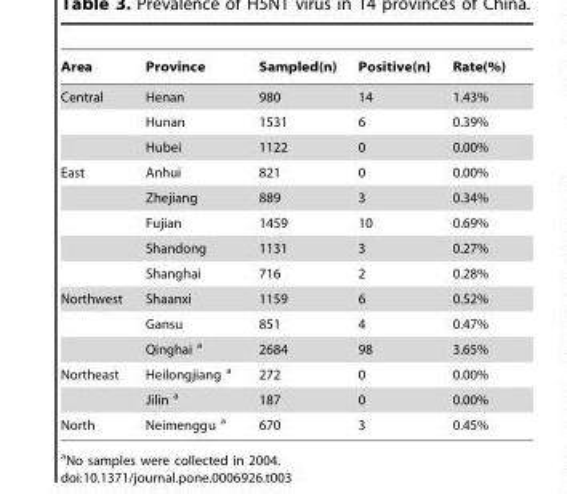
<table><thead><tr><td>Area</td><td>Province</td><td>Sampled(n)</td><td>Positive(n)</td><td>Rate(%)</td></tr></thead><tbody><tr><td rowspan="3">Central</td><td>Henan</td><td>980</td><td>14</td><td>1.43%</td></tr><tr><td>Hunan</td><td>1531</td><td>6</td><td>0.39%</td></tr><tr><td>Hubei</td><td>1122</td><td>0</td><td>0.00%</td></tr><tr><td rowspan="5">East</td><td>Anhui</td><td>821</td><td>0</td><td>0.00%</td></tr><tr><td>Zhejiang</td><td>889</td><td>3</td><td>0.34%</td></tr><tr><td>Fujian</td><td>1459</td><td>10</td><td>0.69%</td></tr><tr><td>Shandong</td><td>1131</td><td>3</td><td>0.27%</td></tr><tr><td>Shanghai</td><td>716</td><td>2</td><td>0.28%</td></tr><tr><td rowspan="3">Northwest</td><td>Shaanxi</td><td>1159</td><td>6</td><td>0.52%</td></tr><tr><td>Gansu</td><td>851</td><td>4</td><td>0.47%</td></tr><tr><td>Qinghai a</td><td>2684</td><td>98</td><td>3.65%</td></tr><tr><td rowspan="2">Northeast</td><td>Heilongjiang a</td><td>272</td><td>0</td><td>0.00%</td></tr><tr><td>Jilin a</td><td>187</td><td>0</td><td>0.00%</td></tr><tr><td>North</td><td>Neimenggu a</td><td>670</td><td>3</td><td>0.45%</td></tr></tbody></table>